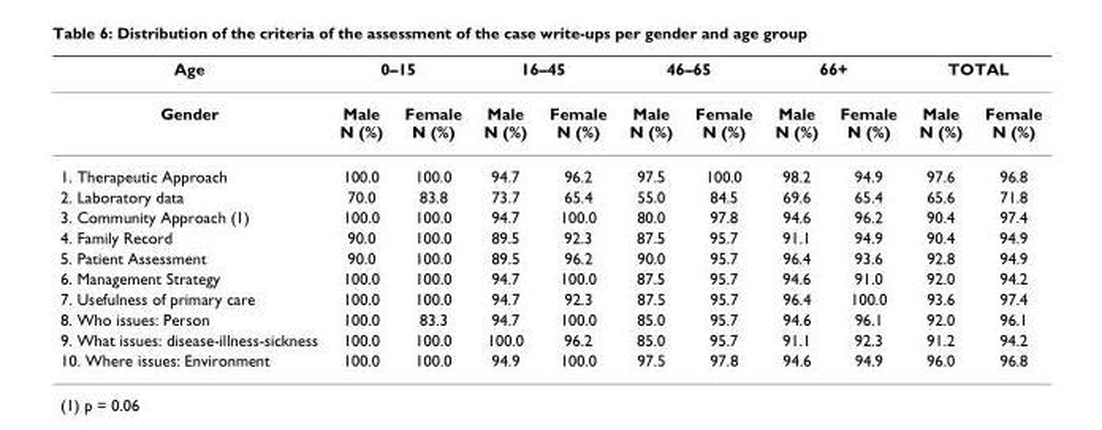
<table><thead><tr><td rowspan="2">Age Gender</td><td colspan="2">0–15</td><td colspan="2">16–45</td><td colspan="2">46–65</td><td colspan="2">66+</td><td colspan="2">TOTAL</td></tr><tr><td>Male N (%)</td><td>Female N (%)</td><td>Male N (%)</td><td>Female N (%)</td><td>Male N (%)</td><td>Female N (%)</td><td>Male N (%)</td><td>Female N (%)</td><td>Male N (%)</td><td>Female N (%)</td></tr></thead><tbody><tr><td>1. Therapeutic Approach</td><td>100.0</td><td>100.0</td><td>94.7</td><td>96.2</td><td>97.5</td><td>100.0</td><td>98.2</td><td>94.9</td><td>97.6</td><td>96.8</td></tr><tr><td>2. Laboratory data</td><td>70.0</td><td>83.8</td><td>73.7</td><td>65.4</td><td>55.0</td><td>84.5</td><td>69.6</td><td>65.4</td><td>65.6</td><td>71.8</td></tr><tr><td>3. Community Approach (1)</td><td>100.0</td><td>100.0</td><td>94.7</td><td>100.0</td><td>80.0</td><td>97.8</td><td>94.6</td><td>96.2</td><td>90.4</td><td>97.4</td></tr><tr><td>4. Family Record</td><td>90.0</td><td>100.0</td><td>89.5</td><td>92.3</td><td>87.5</td><td>95.7</td><td>91.1</td><td>94.9</td><td>90.4</td><td>94.9</td></tr><tr><td>5. Patient Assessment</td><td>90.0</td><td>100.0</td><td>89.5</td><td>96.2</td><td>90.0</td><td>95.7</td><td>96.4</td><td>93.6</td><td>92.8</td><td>94.9</td></tr><tr><td>6. Management Strategy</td><td>100.0</td><td>100.0</td><td>94.7</td><td>100.0</td><td>87.5</td><td>95.7</td><td>94.6</td><td>91.0</td><td>92.0</td><td>94.2</td></tr><tr><td>7. Usefulness of primary care</td><td>100.0</td><td>100.0</td><td>94.7</td><td>92.3</td><td>87.5</td><td>95.7</td><td>96.4</td><td>100.0</td><td>93.6</td><td>97.4</td></tr><tr><td>8. Who issues: Person</td><td>100.0</td><td>83.3</td><td>94.7</td><td>100.0</td><td>85.0</td><td>95.7</td><td>94.6</td><td>96.1</td><td>92.0</td><td>96.1</td></tr><tr><td>9. What issues: disease-illness-sickness</td><td>100.0</td><td>100.0</td><td>100.0</td><td>96.2</td><td>85.0</td><td>95.7</td><td>91.1</td><td>92.3</td><td>91.2</td><td>94.2</td></tr><tr><td>10. Where issues: Environment</td><td>100.0</td><td>100.0</td><td>94.9</td><td>100.0</td><td>97.5</td><td>97.8</td><td>94.6</td><td>94.9</td><td>96.0</td><td>96.8</td></tr></tbody></table>